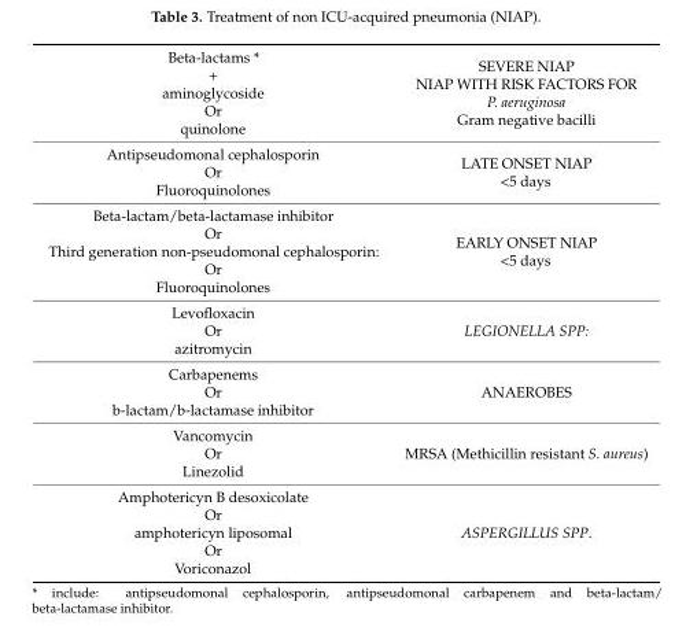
<table><tbody><tr><td>Beta-lactams * + aminoglycoside Or quinolone</td><td>SEVERE NIAP NIAP WITH RISK FACTORS FOR P. aeruginosa Gram negative bacilli</td></tr><tr><td>Antipseudomonal cephalosporin Or Fluoroquinolones</td><td>LATE ONSET NIAP &lt;5 days</td></tr><tr><td>Beta-lactam/beta-lactamase inhibitor Or Third generation non-pseudomonal cephalosporin: Or Fluoroquinolones</td><td>EARLY ONSET NIAP &lt;5 days</td></tr><tr><td>Levofloxacin Or azitromycin</td><td>LEGIONELLA SPP:</td></tr><tr><td>Carbapenems Or b-lactam/b-lactamase inhibitor</td><td>ANAEROBES</td></tr><tr><td>Vancomycin Or Linezolid</td><td>MRSA (Methicillin resistant S. aureus)</td></tr><tr><td>Amphotericyn B desoxicolate Or amphotericyn liposomal Or Voriconazol</td><td>ASPERGILLUS SPP.</td></tr></tbody></table>